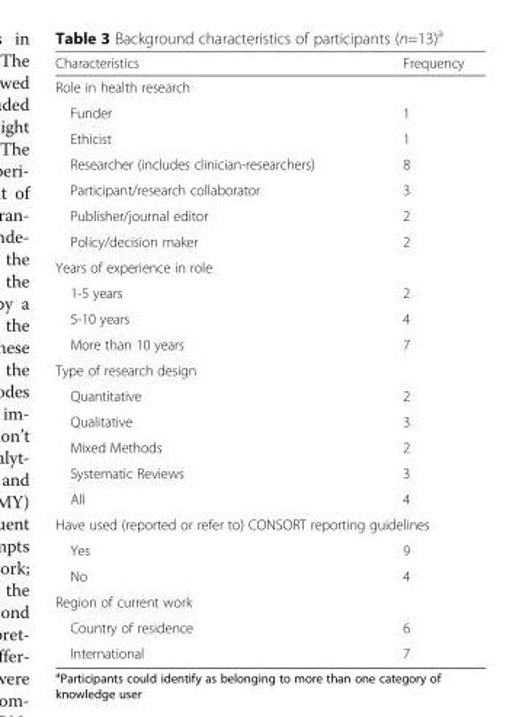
<table><thead><tr><td>Characteristics</td><td>Frequency</td></tr></thead><tbody><tr><td colspan="2">Role in health research</td></tr><tr><td>Funder</td><td>1</td></tr><tr><td>Ethicist</td><td>1</td></tr><tr><td>Researcher (includes clinician-researchers)</td><td>8</td></tr><tr><td>Participant/research collaborator</td><td>3</td></tr><tr><td>Publisher/journal editor</td><td>2</td></tr><tr><td>Policy/decision maker</td><td>2</td></tr><tr><td colspan="2">Years of experience in role</td></tr><tr><td>1-5 years</td><td>2</td></tr><tr><td>5-10 years</td><td>4</td></tr><tr><td>More than 10 years</td><td>7</td></tr><tr><td colspan="2">Type of research design</td></tr><tr><td>Quantitative</td><td>2</td></tr><tr><td>Qualitative</td><td>3</td></tr><tr><td>Mixed Methods</td><td>2</td></tr><tr><td>Systematic Reviews</td><td>3</td></tr><tr><td>All</td><td>4</td></tr><tr><td colspan="2">Have used (reported or refer to) CONSORT reporting guidelines</td></tr><tr><td>Yes</td><td>9</td></tr><tr><td>No</td><td>4</td></tr><tr><td colspan="2">Region of current work</td></tr><tr><td>Country of residence</td><td>6</td></tr><tr><td>International</td><td>7</td></tr></tbody></table>